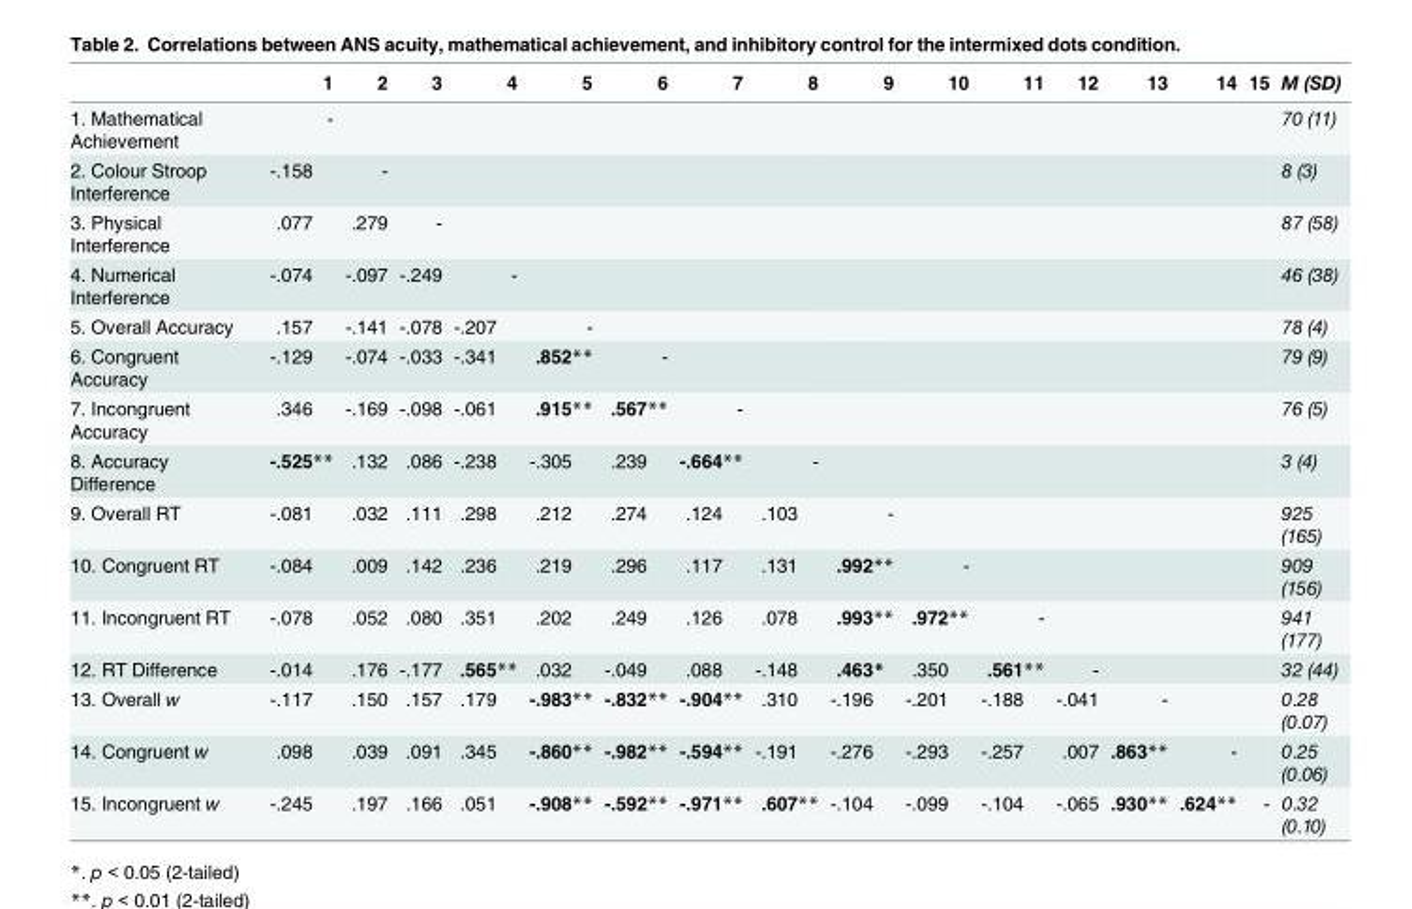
<table><thead><tr><td></td><td>1</td><td>2</td><td>3</td><td>4</td><td>5</td><td>6</td><td>7</td><td>8</td><td>9</td><td>10</td><td>11</td><td>12</td><td>13</td><td>14</td><td>15</td><td>M (SD)</td></tr></thead><tbody><tr><td>1. Mathematical Achievement</td><td>-</td><td></td><td></td><td></td><td></td><td></td><td></td><td></td><td></td><td></td><td></td><td></td><td></td><td></td><td></td><td>70 (11)</td></tr><tr><td>2. Colour Stroop Interference</td><td>-.158</td><td>-</td><td></td><td></td><td></td><td></td><td></td><td></td><td></td><td></td><td></td><td></td><td></td><td></td><td></td><td>8 (3)</td></tr><tr><td>3. Physical Interference</td><td>.077</td><td>.279</td><td>-</td><td></td><td></td><td></td><td></td><td></td><td></td><td></td><td></td><td></td><td></td><td></td><td></td><td>87 (58)</td></tr><tr><td>4. Numerical Interference</td><td>-.074</td><td>-.097</td><td>-.249</td><td>-</td><td></td><td></td><td></td><td></td><td></td><td></td><td></td><td></td><td></td><td></td><td></td><td>46 (38)</td></tr><tr><td>5. Overall Accuracy</td><td>.157</td><td>-.141</td><td>-.078</td><td>-.207</td><td>-</td><td></td><td></td><td></td><td></td><td></td><td></td><td></td><td></td><td></td><td></td><td>78 (4)</td></tr><tr><td>6. Congruent Accuracy</td><td>-.129</td><td>-.074</td><td>-.033</td><td>-.341</td><td>.852**</td><td>-</td><td></td><td></td><td></td><td></td><td></td><td></td><td></td><td></td><td></td><td>79 (9)</td></tr><tr><td>7. Incongruent Accuracy</td><td>.346</td><td>-.169</td><td>-.098</td><td>-.061</td><td>.915**</td><td>.567**</td><td>-</td><td></td><td></td><td></td><td></td><td></td><td></td><td></td><td></td><td>76 (5)</td></tr><tr><td>8. Accuracy Difference</td><td>-.525**</td><td>.132</td><td>.086</td><td>-.238</td><td>-.305</td><td>.239</td><td>-.664**</td><td>-</td><td></td><td></td><td></td><td></td><td></td><td></td><td></td><td>3 (4)</td></tr><tr><td>9. Overall RT</td><td>-.081</td><td>.032</td><td>.111</td><td>.298</td><td>.212</td><td>.274</td><td>.124</td><td>.103</td><td>-</td><td></td><td></td><td></td><td></td><td></td><td></td><td>925 (165)</td></tr><tr><td>10. Congruent RT</td><td>-.084</td><td>.009</td><td>.142</td><td>.236</td><td>.219</td><td>.296</td><td>.117</td><td>.131</td><td>.992**</td><td>-</td><td></td><td></td><td></td><td></td><td></td><td>909 (156)</td></tr><tr><td>11. Incongruent RT</td><td>-.078</td><td>.052</td><td>.080</td><td>.351</td><td>.202</td><td>.249</td><td>.126</td><td>.078</td><td>.993**</td><td>.972**</td><td>-</td><td></td><td></td><td></td><td></td><td>941 (177)</td></tr><tr><td>12. RT Difference</td><td>-.014</td><td>.176</td><td>-.177</td><td>.565**</td><td>.032</td><td>-.049</td><td>.088</td><td>-.148</td><td>.463*</td><td>.350</td><td>.561**</td><td>-</td><td></td><td></td><td></td><td>32 (44)</td></tr><tr><td>13. Overall w</td><td>-.117</td><td>.150</td><td>.157</td><td>.179</td><td>-.983**</td><td>-.832**</td><td>-.904**</td><td>.310</td><td>-.196</td><td>-.201</td><td>-.188</td><td>-.041</td><td>-</td><td></td><td></td><td>0.28 (0.07)</td></tr><tr><td>14. Congruent w</td><td>.098</td><td>.039</td><td>.091</td><td>.345</td><td>-.860**</td><td>-.982**</td><td>-.594**</td><td>-.191</td><td>-.276</td><td>-.293</td><td>-.257</td><td>.007</td><td>.863**</td><td>-</td><td></td><td>0.25 (0.06)</td></tr><tr><td>15. Incongruent w</td><td>-.245</td><td>.197</td><td>.166</td><td>.051</td><td>-.908**</td><td>-.592**</td><td>-.971**</td><td>.607**</td><td>-.104</td><td>-.099</td><td>-.104</td><td>-.065</td><td>.930**</td><td>.624**</td><td>-</td><td>0.32 (0.10)</td></tr></tbody></table>